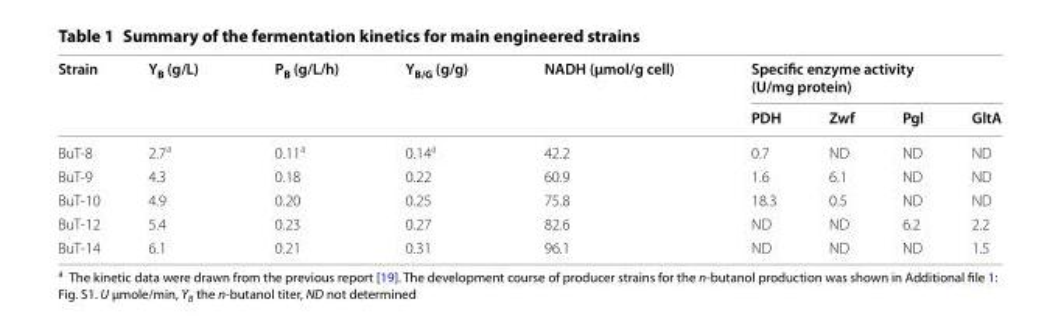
<table><thead><tr><td rowspan="2">Strain</td><td rowspan="2">Y<sub>B</sub> (g/L)</td><td rowspan="2">P<sub>B</sub> (g/L/h)</td><td rowspan="2">Y<sub>B/G</sub> (g/g)</td><td rowspan="2">NADH (μmol/g cell)</td><td colspan="4">Specific enzyme activity (U/mg protein)</td></tr><tr><td>PDH</td><td>Zwf</td><td>Pgl</td><td>GltA</td></tr></thead><tbody><tr><td>BuT‑8</td><td>2.7<sup>a</sup></td><td>0.11<sup>a</sup></td><td>0.14<sup>a</sup></td><td>42.2</td><td>0.7</td><td>ND</td><td>ND</td><td>ND</td></tr><tr><td>BuT‑9</td><td>4.3</td><td>0.18</td><td>0.22</td><td>60.9</td><td>1.6</td><td>6.1</td><td>ND</td><td>ND</td></tr><tr><td>BuT‑10</td><td>4.9</td><td>0.20</td><td>0.25</td><td>75.8</td><td>18.3</td><td>0.5</td><td>ND</td><td>ND</td></tr><tr><td>BuT‑12</td><td>5.4</td><td>0.23</td><td>0.27</td><td>82.6</td><td>ND</td><td>ND</td><td>6.2</td><td>2.2</td></tr><tr><td>BuT‑14</td><td>6.1</td><td>0.21</td><td>0.31</td><td>96.1</td><td>ND</td><td>ND</td><td>ND</td><td>1.5</td></tr></tbody></table>